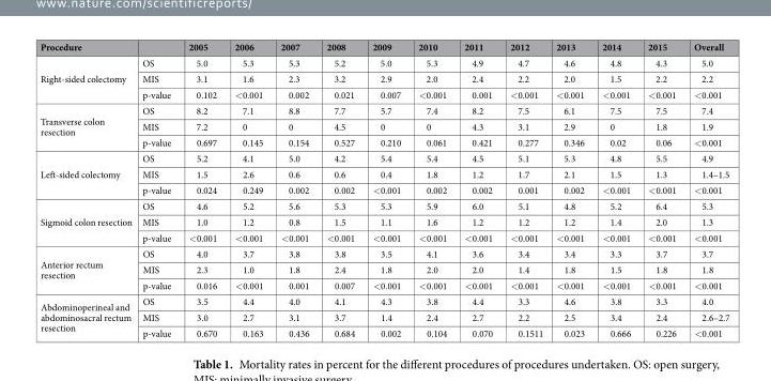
<table><thead><tr><td>Procedure</td><td></td><td>2005</td><td>2006</td><td>2007</td><td>2008</td><td>2009</td><td>2010</td><td>2011</td><td>2012</td><td>2013</td><td>2014</td><td>2015</td><td>Overall</td></tr></thead><tbody><tr><td rowspan="3">Right-sided colectomy</td><td>OS</td><td>5.0</td><td>5.3</td><td>5.3</td><td>5.2</td><td>5.0</td><td>5.3</td><td>4.9</td><td>4.7</td><td>4.6</td><td>4.8</td><td>4.3</td><td>5.0</td></tr><tr><td>MIS</td><td>3.1</td><td>1.6</td><td>2.3</td><td>3.2</td><td>2.9</td><td>2.0</td><td>2.4</td><td>2.2</td><td>2.0</td><td>1.5</td><td>2.2</td><td>2.2</td></tr><tr><td>p-value</td><td>0.102</td><td>&lt;0.001</td><td>0.002</td><td>0.021</td><td>0.007</td><td>&lt;0.001</td><td>0.001</td><td>&lt;0.001</td><td>&lt;0.001</td><td>&lt;0.001</td><td>&lt;0.001</td><td>&lt;0.001</td></tr><tr><td rowspan="3">Transverse colon resection</td><td>OS</td><td>8.2</td><td>7.1</td><td>8.8</td><td>7.7</td><td>5.7</td><td>7.4</td><td>8.2</td><td>7.5</td><td>6.1</td><td>7.5</td><td>7.5</td><td>7.4</td></tr><tr><td>MIS</td><td>7.2</td><td>0</td><td>0</td><td>4.5</td><td>0</td><td>0</td><td>4.3</td><td>3.1</td><td>2.9</td><td>0</td><td>1.8</td><td>1.9</td></tr><tr><td>p-value</td><td>0.697</td><td>0.145</td><td>0.154</td><td>0.527</td><td>0.210</td><td>0.061</td><td>0.421</td><td>0.277</td><td>0.346</td><td>0.02</td><td>0.06</td><td>&lt;0.001</td></tr><tr><td rowspan="3">Left-sided colectomy</td><td>OS</td><td>5.2</td><td>4.1</td><td>5.0</td><td>4.2</td><td>5.4</td><td>5.4</td><td>4.5</td><td>5.1</td><td>5.3</td><td>4.8</td><td>5.5</td><td>4.9</td></tr><tr><td>MIS</td><td>1.5</td><td>2.6</td><td>0.6</td><td>0.6</td><td>0.4</td><td>1.8</td><td>1.2</td><td>1.7</td><td>2.1</td><td>1.5</td><td>1.3</td><td>1.4–1.5</td></tr><tr><td>p-value</td><td>0.024</td><td>0.249</td><td>0.002</td><td>0.002</td><td>&lt;0.001</td><td>0.002</td><td>0.002</td><td>0.001</td><td>0.002</td><td>&lt;0.001</td><td>&lt;0.001</td><td>&lt;0.001</td></tr><tr><td rowspan="3">Sigmoid colon resection</td><td>OS</td><td>4.6</td><td>5.2</td><td>5.6</td><td>5.3</td><td>5.3</td><td>5.9</td><td>6.0</td><td>5.1</td><td>4.8</td><td>5.2</td><td>6.4</td><td>5.3</td></tr><tr><td>MIS</td><td>1.0</td><td>1.2</td><td>0.8</td><td>1.5</td><td>1.1</td><td>1.6</td><td>1.2</td><td>1.2</td><td>1.2</td><td>1.4</td><td>2.0</td><td>1.3</td></tr><tr><td>p-value</td><td>&lt;0.001</td><td>&lt;0.001</td><td>&lt;0.001</td><td>&lt;0.001</td><td>&lt;0.001</td><td>&lt;0.001</td><td>&lt;0.001</td><td>&lt;0.001</td><td>&lt;0.001</td><td>&lt;0.001</td><td>&lt;0.001</td><td>&lt;0.001</td></tr><tr><td rowspan="3">Anterior rectum resection</td><td>OS</td><td>4.0</td><td>3.7</td><td>3.8</td><td>3.8</td><td>3.5</td><td>4.1</td><td>3.6</td><td>3.4</td><td>3.4</td><td>3.3</td><td>3.7</td><td>3.7</td></tr><tr><td>MIS</td><td>2.3</td><td>1.0</td><td>1.8</td><td>2.4</td><td>1.8</td><td>2.0</td><td>2.0</td><td>1.4</td><td>1.8</td><td>1.5</td><td>1.8</td><td>1.8</td></tr><tr><td>p-value</td><td>0.016</td><td>&lt;0.001</td><td>0.001</td><td>0.007</td><td>&lt;0.001</td><td>&lt;0.001</td><td>&lt;0.001</td><td>&lt;0.001</td><td>&lt;0.001</td><td>&lt;0.001</td><td>&lt;0.001</td><td>&lt;0.001</td></tr><tr><td rowspan="3">Abdominoperineal and abdominosacral rectum resection</td><td>OS</td><td>3.5</td><td>4.4</td><td>4.0</td><td>4.1</td><td>4.3</td><td>3.8</td><td>4.4</td><td>3.3</td><td>4.6</td><td>3.8</td><td>3.3</td><td>4.0</td></tr><tr><td>MIS</td><td>3.0</td><td>2.7</td><td>3.1</td><td>3.7</td><td>1.4</td><td>2.4</td><td>2.7</td><td>2.2</td><td>2.5</td><td>3.4</td><td>2.4</td><td>2.6–2.7</td></tr><tr><td>p-value</td><td>0.670</td><td>0.163</td><td>0.436</td><td>0.684</td><td>0.002</td><td>0.104</td><td>0.070</td><td>0.1511</td><td>0.023</td><td>0.666</td><td>0.226</td><td>&lt;0.001</td></tr></tbody></table>